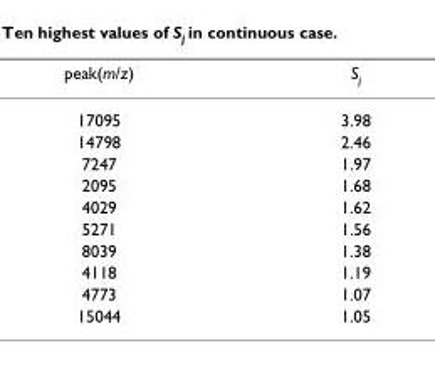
<table><thead><tr><td>peak(m/z)</td><td>Sj</td></tr></thead><tbody><tr><td>17095</td><td>3.98</td></tr><tr><td>14798</td><td>2.46</td></tr><tr><td>7247</td><td>1.97</td></tr><tr><td>2095</td><td>1.68</td></tr><tr><td>4029</td><td>1.62</td></tr><tr><td>5271</td><td>1.56</td></tr><tr><td>8039</td><td>1.38</td></tr><tr><td>4118</td><td>1.19</td></tr><tr><td>4773</td><td>1.07</td></tr><tr><td>15044</td><td>1.05</td></tr></tbody></table>